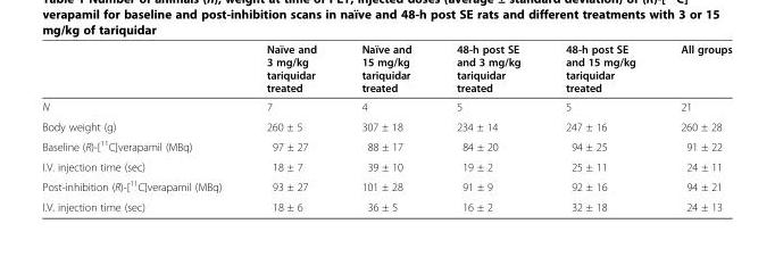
<table><thead><tr><td></td><td>Naïve and 3 mg/kg tariquidar treated</td><td>Naïve and 15 mg/kg tariquidar treated</td><td>48-h post SE and 3 mg/kg tariquidar treated</td><td>48-h post SE and 15 mg/kg tariquidar treated</td><td>All groups</td></tr></thead><tbody><tr><td>N</td><td>7</td><td>4</td><td>5</td><td>5</td><td>21</td></tr><tr><td>Body weight (g)</td><td>260 ± 5</td><td>307 ± 18</td><td>234 ± 14</td><td>247 ± 16</td><td>260 ± 28</td></tr><tr><td>Baseline (R)-[<sup>11</sup>C]verapamil (MBq)</td><td>97 ± 27</td><td>88 ± 17</td><td>84 ± 20</td><td>94 ± 25</td><td>91 ± 22</td></tr><tr><td>I.V. injection time (sec)</td><td>18 ± 7</td><td>39 ± 10</td><td>19 ± 2</td><td>25 ± 11</td><td>24 ± 11</td></tr><tr><td>Post-inhibition (R)-[<sup>11</sup>C]verapamil (MBq)</td><td>93 ± 27</td><td>101 ± 28</td><td>91 ± 9</td><td>92 ± 16</td><td>94 ± 21</td></tr><tr><td>I.V. injection time (sec)</td><td>18 ± 6</td><td>36 ± 5</td><td>16 ± 2</td><td>32 ± 18</td><td>24 ± 13</td></tr></tbody></table>